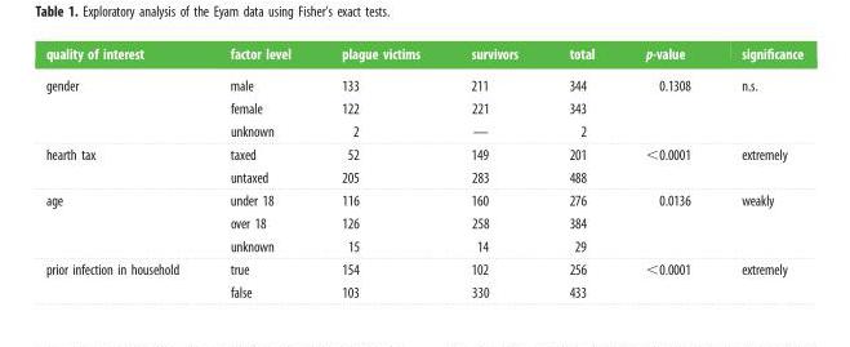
<table><thead><tr><td>quality of interest</td><td>factor level</td><td>plague victims</td><td>survivors</td><td>total</td><td>p-value</td><td>significance</td></tr></thead><tbody><tr><td>gender</td><td>male female unknown</td><td>133 122 2</td><td>211 221 —</td><td>344 343 2</td><td>0.1308</td><td>n.s.</td></tr><tr><td>hearth tax</td><td>taxed untaxed</td><td>52 205</td><td>149 283</td><td>201 488</td><td>&lt;0.0001</td><td>extremely</td></tr><tr><td>age</td><td>under 18 over 18 unknown</td><td>116 126 15</td><td>160 258 14</td><td>276 384 29</td><td>0.0136</td><td>weakly</td></tr><tr><td>prior infection in household</td><td>true false</td><td>154 103</td><td>102 330</td><td>256 433</td><td>&lt;0.0001</td><td>extremely</td></tr></tbody></table>